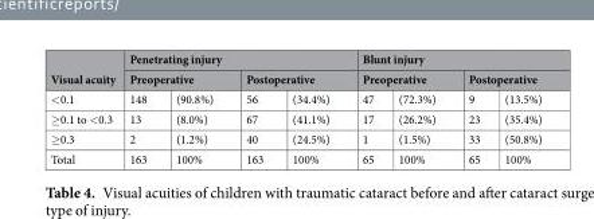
<table><thead><tr><td rowspan="3">Visual acuity &lt;0.1</td><td colspan="4">Penetrating injury</td><td colspan="4">Blunt injury</td></tr><tr><td colspan="2">Preoperative</td><td colspan="2">Postoperative</td><td colspan="2">Preoperative</td><td colspan="2">Postoperative</td></tr><tr><td>148</td><td>(90.8%)</td><td>56</td><td>(34.4%)</td><td>47</td><td>(72.3%)</td><td>9</td><td>(13.5%)</td></tr></thead><tbody><tr><td>≥0.1 to &lt;0.3</td><td>13</td><td>(8.0%)</td><td>67</td><td>(41.1%)</td><td>17</td><td>(26.2%)</td><td>23</td><td>(35.4%)</td></tr><tr><td>≥0.3</td><td>2</td><td>(1.2%)</td><td>40</td><td>(24.5%)</td><td>1</td><td>(1.5%)</td><td>33</td><td>(50.8%)</td></tr><tr><td>Total</td><td>163</td><td>100%</td><td>163</td><td>100%</td><td>65</td><td>100%</td><td>65</td><td>100%</td></tr></tbody></table>